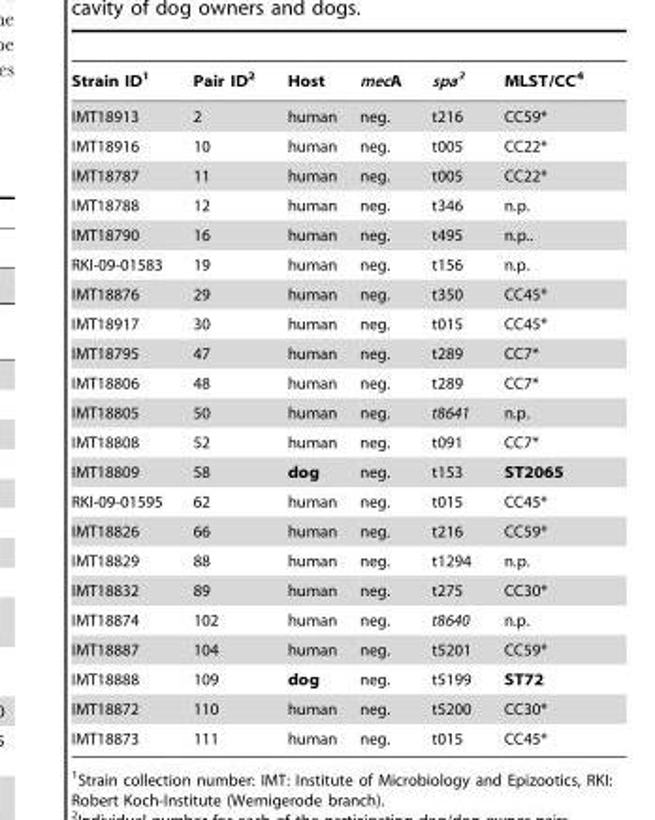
<table><thead><tr><td>Strain ID<sup>1</sup></td><td>Pair ID<sup>2</sup></td><td>Host</td><td>mecA</td><td>spa3</td><td>MLST/CC<sup>4</sup></td></tr></thead><tbody><tr><td>IMT18913</td><td>2</td><td>human</td><td>neg.</td><td>t216</td><td>CC59*</td></tr><tr><td>IMT18916</td><td>10</td><td>human</td><td>neg.</td><td>t005</td><td>CC22*</td></tr><tr><td>IMT18787</td><td>11</td><td>human</td><td>neg.</td><td>t005</td><td>CC22*</td></tr><tr><td>IMT18788</td><td>12</td><td>human</td><td>neg.</td><td>t346</td><td>n.p.</td></tr><tr><td>IMT18790</td><td>16</td><td>human</td><td>neg.</td><td>t495</td><td>n.p..</td></tr><tr><td>RKI-09-01583</td><td>19</td><td>human</td><td>neg.</td><td>t156</td><td>n.p.</td></tr><tr><td>IMT18876</td><td>29</td><td>human</td><td>neg.</td><td>t350</td><td>CC45*</td></tr><tr><td>IMT18917</td><td>30</td><td>human</td><td>neg.</td><td>t015</td><td>CC45*</td></tr><tr><td>IMT18795</td><td>47</td><td>human</td><td>neg.</td><td>t289</td><td>CC7*</td></tr><tr><td>IMT18806</td><td>48</td><td>human</td><td>neg.</td><td>t289</td><td>CC7*</td></tr><tr><td>IMT18805</td><td>50</td><td>human</td><td>neg.</td><td>t8641</td><td>n.p.</td></tr><tr><td>IMT18808</td><td>52</td><td>human</td><td>neg.</td><td>t091</td><td>CC7*</td></tr><tr><td>IMT18809</td><td>58</td><td>dog</td><td>neg.</td><td>t153</td><td>ST2065</td></tr><tr><td>RKI-09-01595</td><td>62</td><td>human</td><td>neg.</td><td>t015</td><td>CC45*</td></tr><tr><td>IMT18826</td><td>66</td><td>human</td><td>neg.</td><td>t216</td><td>CC59*</td></tr><tr><td>IMT18829</td><td>88</td><td>human</td><td>neg.</td><td>t1294</td><td>n.p.</td></tr><tr><td>IMT18832</td><td>89</td><td>human</td><td>neg.</td><td>t275</td><td>CC30*</td></tr><tr><td>IMT18874</td><td>102</td><td>human</td><td>neg.</td><td>t8640</td><td>n.p.</td></tr><tr><td>IMT18887</td><td>104</td><td>human</td><td>neg.</td><td>t5201</td><td>CC59*</td></tr><tr><td>IMT18888</td><td>109</td><td>dog</td><td>neg.</td><td>t5199</td><td>ST72</td></tr><tr><td>IMT18872</td><td>110</td><td>human</td><td>neg.</td><td>t5200</td><td>CC30*</td></tr><tr><td>IMT18873</td><td>111</td><td>human</td><td>neg.</td><td>t015</td><td>CC45*</td></tr></tbody></table>